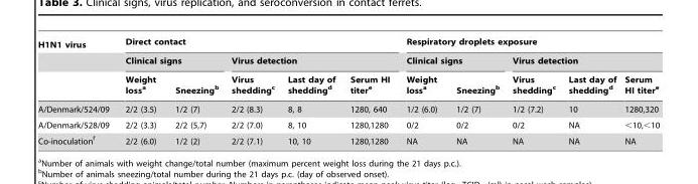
<table><thead><tr><td rowspan="3">H1N1 virus</td><td colspan="5">Direct contact</td><td colspan="5">Respiratory droplets exposure</td></tr><tr><td colspan="2">Clinical signs</td><td colspan="3">Virus detection</td><td colspan="2">Clinical signs</td><td colspan="3">Virus detection</td></tr><tr><td>Weight loss<sup>a</sup></td><td>Sneezing<sup>b</sup></td><td>Virus shedding<sup>c</sup></td><td>Last day of shedding<sup>d</sup></td><td>Serum HI titer<sup>e</sup></td><td>Weight loss<sup>a</sup></td><td>Sneezing<sup>b</sup></td><td>Virus shedding<sup>c</sup></td><td>Last day of shedding<sup>d</sup></td><td>Serum HI titer<sup>e</sup></td></tr></thead><tbody><tr><td>A/Denmark/524/09</td><td>2/2 (3.5)</td><td>1/2 (7)</td><td>2/2 (8.3)</td><td>8, 8</td><td>1280, 640</td><td>1/2 (6.0)</td><td>1/2 (7)</td><td>1/2 (7.2)</td><td>10</td><td>1280,320</td></tr><tr><td>A/Denmark/528/09</td><td>2/2 (3.3)</td><td>2/2 (5,7)</td><td>2/2 (7.0)</td><td>8, 10</td><td>1280,1280</td><td>0/2</td><td>0/2</td><td>0/2</td><td>NA</td><td>&lt;10,&lt;10</td></tr><tr><td>Co-inoculation<sup>f</sup></td><td>2/2 (6.0)</td><td>1/2 (2)</td><td>2/2 (7.1)</td><td>10, 10</td><td>1280,1280</td><td>NA</td><td>NA</td><td>NA</td><td>NA</td><td>NA</td></tr></tbody></table>